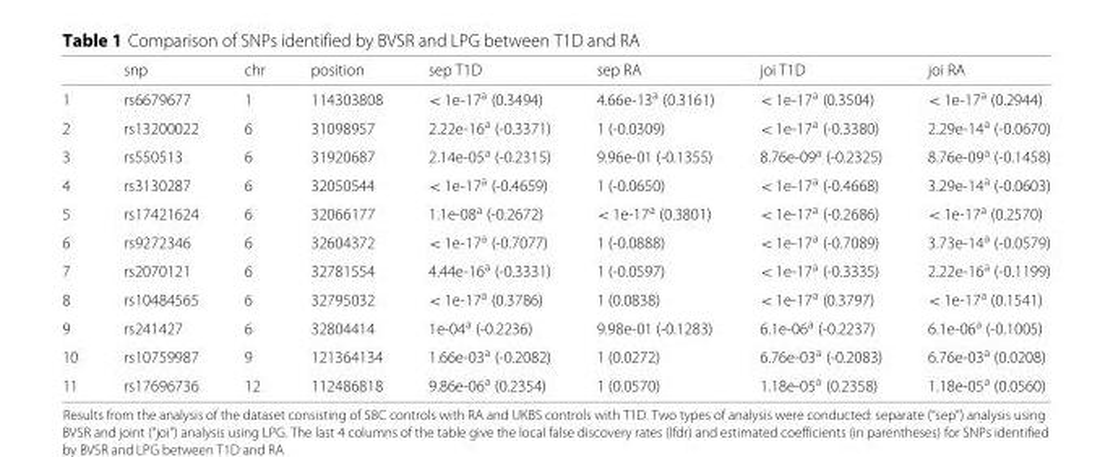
<table><thead><tr><td></td><td>snp</td><td>chr</td><td>position</td><td>sep T1D</td><td>sep RA</td><td>joi T1D</td><td>joi RA</td></tr></thead><tbody><tr><td>1</td><td>rs6679677</td><td>1</td><td>114303808</td><td>&lt; 1e-17<sup>a</sup> (0.3494)</td><td>4.66e-13<sup>a</sup> (0.3161)</td><td>&lt; 1e-17<sup>a</sup> (0.3504)</td><td>&lt; 1e-17<sup>a</sup> (0.2944)</td></tr><tr><td>2</td><td>rs13200022</td><td>6</td><td>31098957</td><td>2.22e-16<sup>a</sup> (-0.3371)</td><td>1 (-0.0309)</td><td>&lt; 1e-17<sup>a</sup> (-0.3380)</td><td>2.29e-14<sup>a</sup> (-0.0670)</td></tr><tr><td>3</td><td>rs550513</td><td>6</td><td>31920687</td><td>2.14e-05<sup>a</sup> (-0.2315)</td><td>9.96e-01 (-0.1355)</td><td>8.76e-09<sup>a</sup> (-0.2325)</td><td>8.76e-09<sup>a</sup> (-0.1458)</td></tr><tr><td>4</td><td>rs3130287</td><td>6</td><td>32050544</td><td>&lt; 1e-17<sup>a</sup> (-0.4659)</td><td>1 (-0.0650)</td><td>&lt; 1e-17<sup>a</sup> (-0.4668)</td><td>3.29e-14<sup>a</sup> (-0.0603)</td></tr><tr><td>5</td><td>rs17421624</td><td>6</td><td>32066177</td><td>1.1e-08<sup>a</sup> (-0.2672)</td><td>&lt; 1e-17<sup>a</sup> (0.3801)</td><td>&lt; 1e-17<sup>a</sup> (-0.2686)</td><td>&lt; 1e-17<sup>a</sup> (0.2570)</td></tr><tr><td>6</td><td>rs9272346</td><td>6</td><td>32604372</td><td>&lt; 1e-17<sup>a</sup> (-0.7077)</td><td>1 (-0.0888)</td><td>&lt; 1e-17<sup>a</sup> (-0.7089)</td><td>3.73e-14<sup>a</sup> (-0.0579)</td></tr><tr><td>7</td><td>rs2070121</td><td>6</td><td>32781554</td><td>4.44e-16<sup>a</sup> (-0.3331)</td><td>1 (-0.0597)</td><td>&lt; 1e-17<sup>a</sup> (-0.3335)</td><td>2.22e-16<sup>a</sup> (-0.1199)</td></tr><tr><td>8</td><td>rs10484565</td><td>6</td><td>32795032</td><td>&lt; 1e-17<sup>a</sup> (0.3786)</td><td>1 (0.0838)</td><td>&lt; 1e-17<sup>a</sup> (0.3797)</td><td>&lt; 1e-17<sup>a</sup> (0.1541)</td></tr><tr><td>9</td><td>rs241427</td><td>6</td><td>32804414</td><td>1e-04<sup>a</sup> (-0.2236)</td><td>9.98e-01 (-0.1283)</td><td>6.1e-06<sup>a</sup> (-0.2237)</td><td>6.1e-06<sup>a</sup> (-0.1005)</td></tr><tr><td>10</td><td>rs10759987</td><td>9</td><td>121364134</td><td>1.66e-03<sup>a</sup> (-0.2082)</td><td>1 (0.0272)</td><td>6.76e-03<sup>a</sup> (-0.2083)</td><td>6.76e-03<sup>a</sup> (0.0208)</td></tr><tr><td>11</td><td>rs17696736</td><td>12</td><td>112486818</td><td>9.86e-06<sup>a</sup> (0.2354)</td><td>1 (0.0570)</td><td>1.18e-05<sup>a</sup> (0.2358)</td><td>1.18e-05<sup>a</sup> (0.0560)</td></tr></tbody></table>